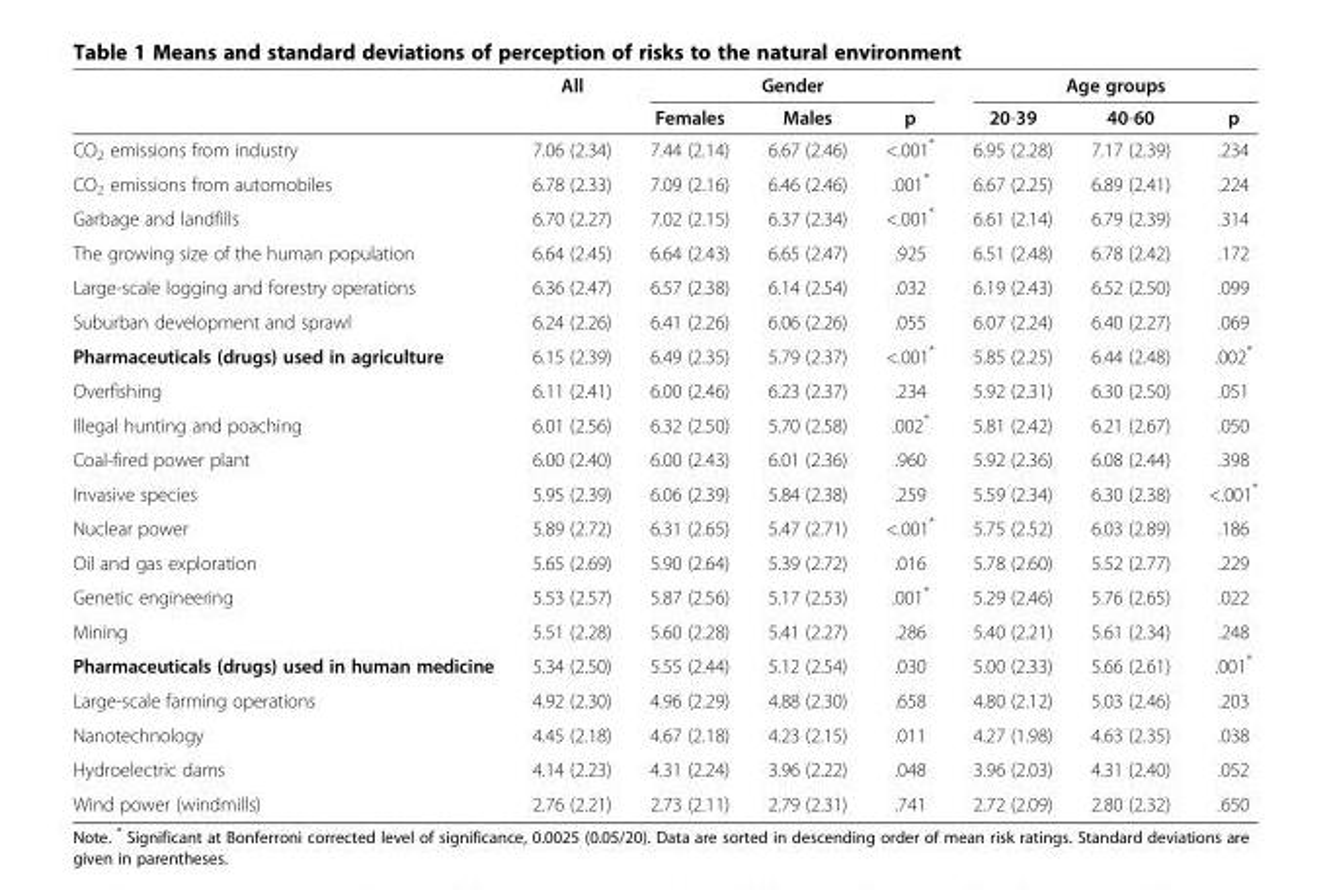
<table><thead><tr><td rowspan="2"></td><td rowspan="2">All</td><td colspan="3">Gender</td><td colspan="3">Age groups</td></tr><tr><td>Females</td><td>Males</td><td>p</td><td>20-39</td><td>40-60</td><td>p</td></tr></thead><tbody><tr><td>CO<sub>2</sub> emissions from industry</td><td>7.06 (2.34)</td><td>7.44 (2.14)</td><td>6.67 (2.46)</td><td>&lt;.001*</td><td>6.95 (2.28)</td><td>7.17 (2.39)</td><td>.234</td></tr><tr><td>CO<sub>2</sub> emissions from automobiles</td><td>6.78 (2.33)</td><td>7.09 (2.16)</td><td>6.46 (2.46)</td><td>.001*</td><td>6.67 (2.25)</td><td>6.89 (2.41)</td><td>.224</td></tr><tr><td>Garbage and landfills</td><td>6.70 (2.27)</td><td>7.02 (2.15)</td><td>6.37 (2.34)</td><td>&lt;.001*</td><td>6.61 (2.14)</td><td>6.79 (2.39)</td><td>.314</td></tr><tr><td>The growing size of the human population</td><td>6.64 (2.45)</td><td>6.64 (2.43)</td><td>6.65 (2.47)</td><td>.925</td><td>6.51 (2.48)</td><td>6.78 (2.42)</td><td>.172</td></tr><tr><td>Large-scale logging and forestry operations</td><td>6.36 (2.47)</td><td>6.57 (2.38)</td><td>6.14 (2.54)</td><td>.032</td><td>6.19 (2.43)</td><td>6.52 (2.50)</td><td>.099</td></tr><tr><td>Suburban development and sprawl</td><td>6.24 (2.26)</td><td>6.41 (2.26)</td><td>6.06 (2.26)</td><td>.055</td><td>6.07 (2.24)</td><td>6.40 (2.27)</td><td>.069</td></tr><tr><td>Pharmaceuticals (drugs) used in agriculture</td><td>6.15 (2.39)</td><td>6.49 (2.35)</td><td>5.79 (2.37)</td><td>&lt;.001*</td><td>5.85 (2.25)</td><td>6.44 (2.48)</td><td>.002*</td></tr><tr><td>Overfishing</td><td>6.11 (2.41)</td><td>6.00 (2.46)</td><td>6.23 (2.37)</td><td>.234</td><td>5.92 (2.31)</td><td>6.30 (2.50)</td><td>.051</td></tr><tr><td>Illegal hunting and poaching</td><td>6.01 (2.56)</td><td>6.32 (2.50)</td><td>5.70 (2.58)</td><td>.002*</td><td>5.81 (2.42)</td><td>6.21 (2.67)</td><td>.050</td></tr><tr><td>Coal-fired power plant</td><td>6.00 (2.40)</td><td>6.00 (2.43)</td><td>6.01 (2.36)</td><td>.960</td><td>5.92 (2.36)</td><td>6.08 (2.44)</td><td>.398</td></tr><tr><td>Invasive species</td><td>5.95 (2.39)</td><td>6.06 (2.39)</td><td>5.84 (2.38)</td><td>.259</td><td>5.59 (2.34)</td><td>6.30 (2.38)</td><td>&lt;.001*</td></tr><tr><td>Nuclear power</td><td>5.89 (2.72)</td><td>6.31 (2.65)</td><td>5.47 (2.71)</td><td>&lt;.001*</td><td>5.75 (2.52)</td><td>6.03 (2.89)</td><td>.186</td></tr><tr><td>Oil and gas exploration</td><td>5.65 (2.69)</td><td>5.90 (2.64)</td><td>5.39 (2.72)</td><td>.016</td><td>5.78 (2.60)</td><td>5.52 (2.77)</td><td>.229</td></tr><tr><td>Genetic engineering</td><td>5.53 (2.57)</td><td>5.87 (2.56)</td><td>5.17 (2.53)</td><td>.001*</td><td>5.29 (2.46)</td><td>5.76 (2.65)</td><td>.022</td></tr><tr><td>Mining</td><td>5.51 (2.28)</td><td>5.60 (2.28)</td><td>5.41 (2.27)</td><td>.286</td><td>5.40 (2.21)</td><td>5.61 (2.34)</td><td>.248</td></tr><tr><td>Pharmaceuticals (drugs) used in human medicine</td><td>5.34 (2.50)</td><td>5.55 (2.44)</td><td>5.12 (2.54)</td><td>.030</td><td>5.00 (2.33)</td><td>5.66 (2.61)</td><td>.001*</td></tr><tr><td>Large-scale farming operations</td><td>4.92 (2.30)</td><td>4.96 (2.29)</td><td>4.88 (2.30)</td><td>.658</td><td>4.80 (2.12)</td><td>5.03 (2.46)</td><td>.203</td></tr><tr><td>Nanotechnology</td><td>4.45 (2.18)</td><td>4.67 (2.18)</td><td>4.23 (2.15)</td><td>.011</td><td>4.27 (1.98)</td><td>4.63 (2.35)</td><td>.038</td></tr><tr><td>Hydroelectric dams</td><td>4.14 (2.23)</td><td>4.31 (2.24)</td><td>3.96 (2.22)</td><td>.048</td><td>3.96 (2.03)</td><td>4.31 (2.40)</td><td>.052</td></tr><tr><td>Wind power (windmills)</td><td>2.76 (2.21)</td><td>2.73 (2.11)</td><td>2.79 (2.31)</td><td>.741</td><td>2.72 (2.09)</td><td>2.80 (2.32)</td><td>.650</td></tr></tbody></table>